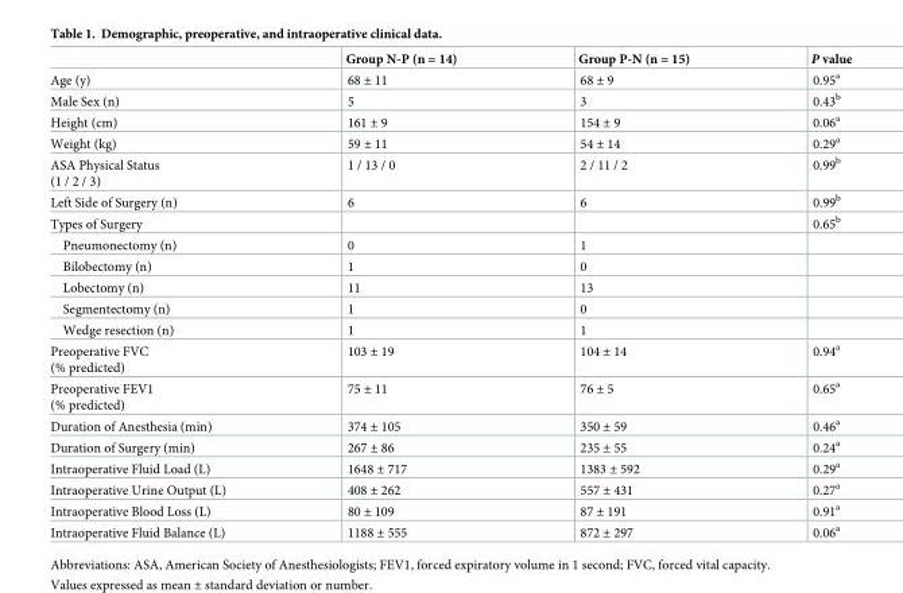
<table><thead><tr><td></td><td>Group N-P (n = 14)</td><td>Group P-N (n = 15)</td><td>P value</td></tr></thead><tbody><tr><td>Age (y)</td><td>68 ± 11</td><td>68 ± 9</td><td>0.95<sup>a</sup></td></tr><tr><td>Male Sex (n)</td><td>5</td><td>3</td><td>0.43<sup>b</sup></td></tr><tr><td>Height (cm)</td><td>161 ± 9</td><td>154 ± 9</td><td>0.06<sup>a</sup></td></tr><tr><td>Weight (kg)</td><td>59 ± 11</td><td>54 ± 14</td><td>0.29<sup>a</sup></td></tr><tr><td>ASA Physical Status (1 / 2 / 3)</td><td>1 / 13 / 0</td><td>2 / 11 / 2</td><td>0.99<sup>b</sup></td></tr><tr><td>Left Side of Surgery (n)</td><td>6</td><td>6</td><td>0.99<sup>b</sup></td></tr><tr><td>Types of Surgery</td><td></td><td></td><td>0.65<sup>b</sup></td></tr><tr><td>Pneumonectomy (n)</td><td>0</td><td>1</td><td></td></tr><tr><td>Bilobectomy (n)</td><td>1</td><td>0</td><td></td></tr><tr><td>Lobectomy (n)</td><td>11</td><td>13</td><td></td></tr><tr><td>Segmentectomy (n)</td><td>1</td><td>0</td><td></td></tr><tr><td>Wedge resection (n)</td><td>1</td><td>1</td><td></td></tr><tr><td>Preoperative FVC (% predicted)</td><td>103 ± 19</td><td>104 ± 14</td><td>0.94<sup>a</sup></td></tr><tr><td>Preoperative FEV1 (% predicted)</td><td>75 ± 11</td><td>76 ± 5</td><td>0.65<sup>a</sup></td></tr><tr><td>Duration of Anesthesia (min)</td><td>374 ± 105</td><td>350 ± 59</td><td>0.46<sup>a</sup></td></tr><tr><td>Duration of Surgery (min)</td><td>267 ± 86</td><td>235 ± 55</td><td>0.24<sup>a</sup></td></tr><tr><td>Intraoperative Fluid Load (L)</td><td>1648 ± 717</td><td>1383 ± 592</td><td>0.29<sup>a</sup></td></tr><tr><td>Intraoperative Urine Output (L)</td><td>408 ± 262</td><td>557 ± 431</td><td>0.27<sup>a</sup></td></tr><tr><td>Intraoperative Blood Loss (L)</td><td>80 ± 109</td><td>87 ± 191</td><td>0.91<sup>a</sup></td></tr><tr><td>Intraoperative Fluid Balance (L)</td><td>1188 ± 555</td><td>872 ± 297</td><td>0.06<sup>a</sup></td></tr></tbody></table>